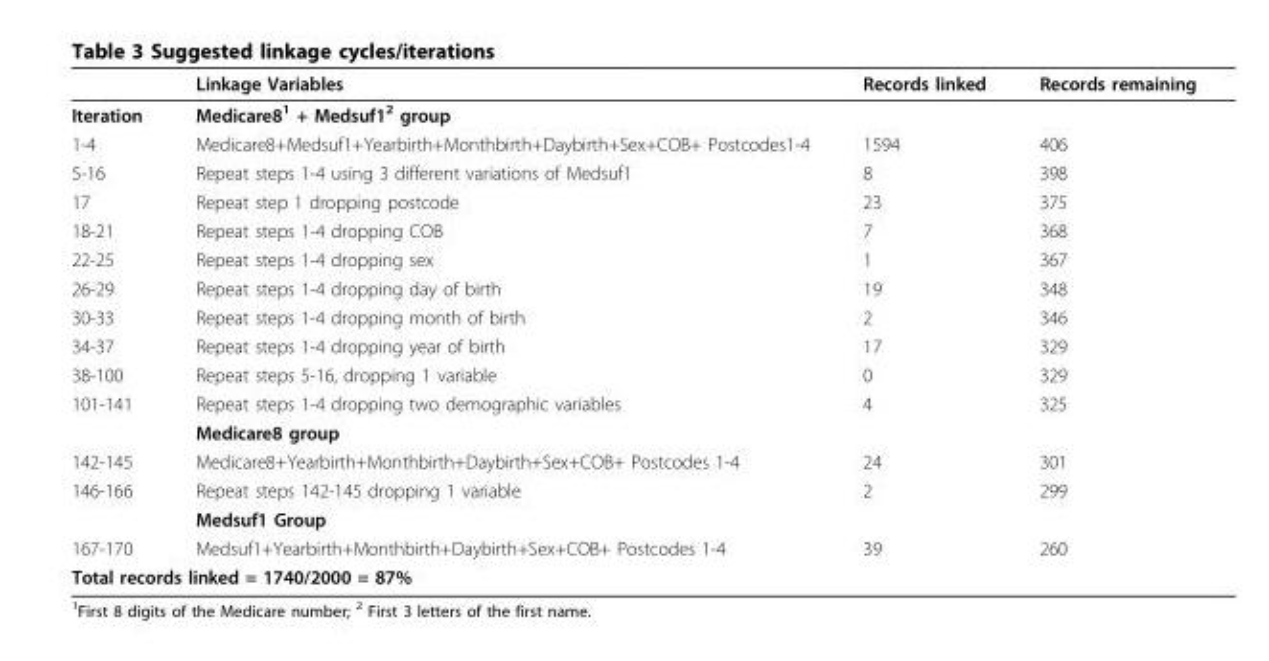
<table><thead><tr><td></td><td>Linkage Variables</td><td>Records linked</td><td>Records remaining</td></tr></thead><tbody><tr><td>Iteration</td><td colspan="2">Medicare8<sup>1</sup> + Medsuf1<sup>2</sup> group</td><td></td></tr><tr><td>1-4</td><td>Medicare8+Medsuf1+Yearbirth+Monthbirth+Daybirth+Sex+COB+ Postcodes1-4</td><td>1594</td><td>406</td></tr><tr><td>5-16</td><td>Repeat steps 1-4 using 3 different variations of Medsuf1</td><td>8</td><td>398</td></tr><tr><td>17</td><td>Repeat step 1 dropping postcode</td><td>23</td><td>375</td></tr><tr><td>18-21</td><td>Repeat steps 1-4 dropping COB</td><td>7</td><td>368</td></tr><tr><td>22-25</td><td>Repeat steps 1-4 dropping sex</td><td>1</td><td>367</td></tr><tr><td>26-29</td><td>Repeat steps 1-4 dropping day of birth</td><td>19</td><td>348</td></tr><tr><td>30-33</td><td>Repeat steps 1-4 dropping month of birth</td><td>2</td><td>346</td></tr><tr><td>34-37</td><td>Repeat steps 1-4 dropping year of birth</td><td>17</td><td>329</td></tr><tr><td>38-100</td><td>Repeat steps 5-16, dropping 1 variable</td><td>0</td><td>329</td></tr><tr><td rowspan="2">101-141</td><td>Repeat steps 1-4 dropping two demographic variables</td><td>4</td><td>325</td></tr><tr><td colspan="3">Medicare8 group</td></tr><tr><td>142-145</td><td>Medicare8+Yearbirth+Monthbirth+Daybirth+Sex+COB+ Postcodes 1-4</td><td>24</td><td>301</td></tr><tr><td rowspan="2">146-166</td><td>Repeat steps 142-145 dropping 1 variable</td><td>2</td><td>299</td></tr><tr><td colspan="3">Medsuf1 Group</td></tr><tr><td>167-170</td><td>Medsuf1+Yearbirth+Monthbirth+Daybirth+Sex+COB+ Postcodes 1-4</td><td>39</td><td>260</td></tr><tr><td colspan="4">Total records linked = 1740/2000 = 87%</td></tr></tbody></table>